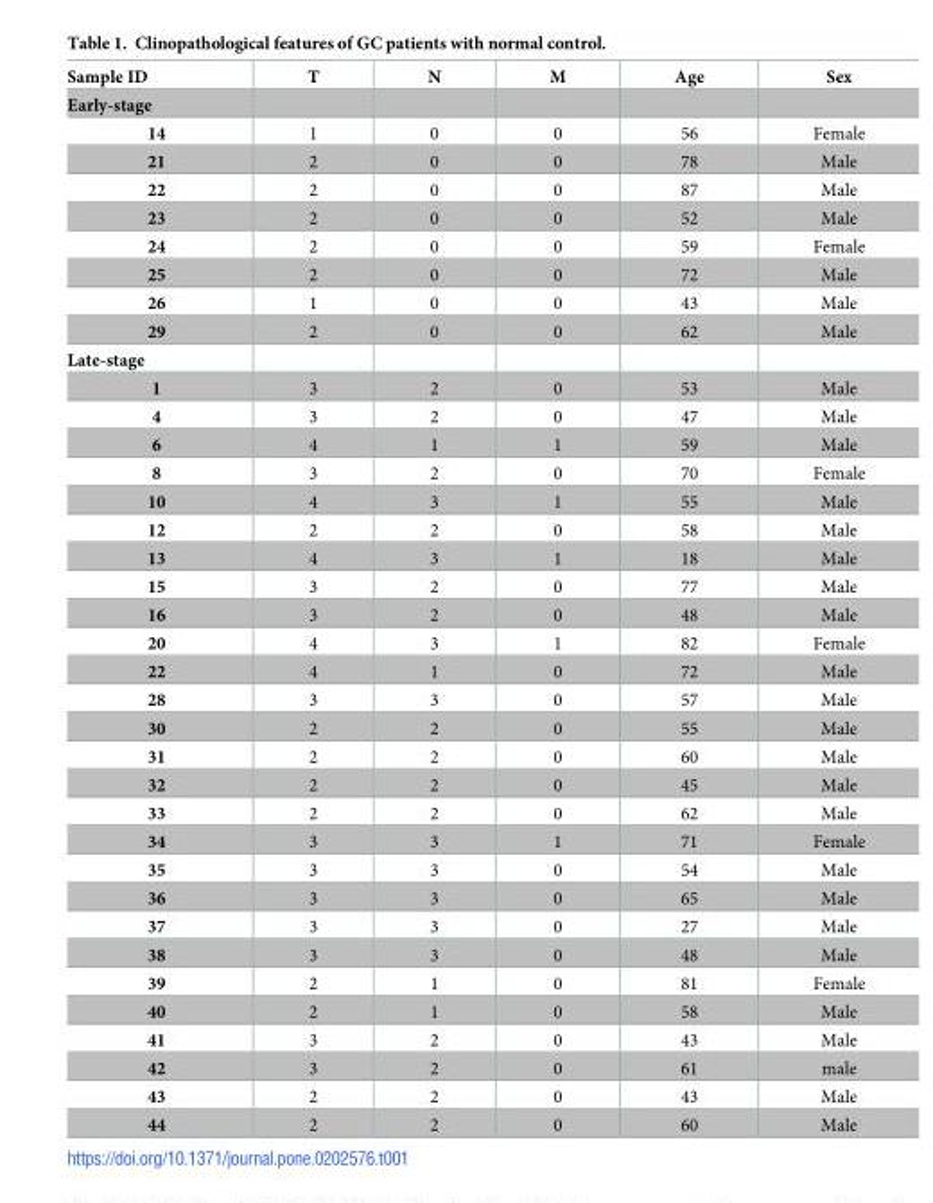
<table><thead><tr><td>Sample ID</td><td>T</td><td>N</td><td>M</td><td>Age</td><td>Sex</td></tr></thead><tbody><tr><td colspan="6">Early-stage</td></tr><tr><td>14</td><td>1</td><td>0</td><td>0</td><td>56</td><td>Female</td></tr><tr><td>21</td><td>2</td><td>0</td><td>0</td><td>78</td><td>Male</td></tr><tr><td>22</td><td>2</td><td>0</td><td>0</td><td>87</td><td>Male</td></tr><tr><td>23</td><td>2</td><td>0</td><td>0</td><td>52</td><td>Male</td></tr><tr><td>24</td><td>2</td><td>0</td><td>0</td><td>59</td><td>Female</td></tr><tr><td>25</td><td>2</td><td>0</td><td>0</td><td>72</td><td>Male</td></tr><tr><td>26</td><td>1</td><td>0</td><td>0</td><td>43</td><td>Male</td></tr><tr><td>29</td><td>2</td><td>0</td><td>0</td><td>62</td><td>Male</td></tr><tr><td colspan="6">Late-stage</td></tr><tr><td>1</td><td>3</td><td>2</td><td>0</td><td>53</td><td>Male</td></tr><tr><td>4</td><td>3</td><td>2</td><td>0</td><td>47</td><td>Male</td></tr><tr><td>6</td><td>4</td><td>1</td><td>1</td><td>59</td><td>Male</td></tr><tr><td>8</td><td>3</td><td>2</td><td>0</td><td>70</td><td>Female</td></tr><tr><td>10</td><td>4</td><td>3</td><td>1</td><td>55</td><td>Male</td></tr><tr><td>12</td><td>2</td><td>2</td><td>0</td><td>58</td><td>Male</td></tr><tr><td>13</td><td>4</td><td>3</td><td>1</td><td>18</td><td>Male</td></tr><tr><td>15</td><td>3</td><td>2</td><td>0</td><td>77</td><td>Male</td></tr><tr><td>16</td><td>3</td><td>2</td><td>0</td><td>48</td><td>Male</td></tr><tr><td>20</td><td>4</td><td>3</td><td>1</td><td>82</td><td>Female</td></tr><tr><td>22</td><td>4</td><td>1</td><td>0</td><td>72</td><td>Male</td></tr><tr><td>28</td><td>3</td><td>3</td><td>0</td><td>57</td><td>Male</td></tr><tr><td>30</td><td>2</td><td>2</td><td>0</td><td>55</td><td>Male</td></tr><tr><td>31</td><td>2</td><td>2</td><td>0</td><td>60</td><td>Male</td></tr><tr><td>32</td><td>2</td><td>2</td><td>0</td><td>45</td><td>Male</td></tr><tr><td>33</td><td>2</td><td>2</td><td>0</td><td>62</td><td>Male</td></tr><tr><td>34</td><td>3</td><td>3</td><td>1</td><td>71</td><td>Female</td></tr><tr><td>35</td><td>3</td><td>3</td><td>0</td><td>54</td><td>Male</td></tr><tr><td>36</td><td>3</td><td>3</td><td>0</td><td>65</td><td>Male</td></tr><tr><td>37</td><td>3</td><td>3</td><td>0</td><td>27</td><td>Male</td></tr><tr><td>38</td><td>3</td><td>3</td><td>0</td><td>48</td><td>Male</td></tr><tr><td>39</td><td>2</td><td>1</td><td>0</td><td>81</td><td>Female</td></tr><tr><td>40</td><td>2</td><td>1</td><td>0</td><td>58</td><td>Male</td></tr><tr><td>41</td><td>3</td><td>2</td><td>0</td><td>43</td><td>Male</td></tr><tr><td>42</td><td>3</td><td>2</td><td>0</td><td>61</td><td>male</td></tr><tr><td>43</td><td>2</td><td>2</td><td>0</td><td>43</td><td>Male</td></tr><tr><td>44</td><td>2</td><td>2</td><td>0</td><td>60</td><td>Male</td></tr></tbody></table>